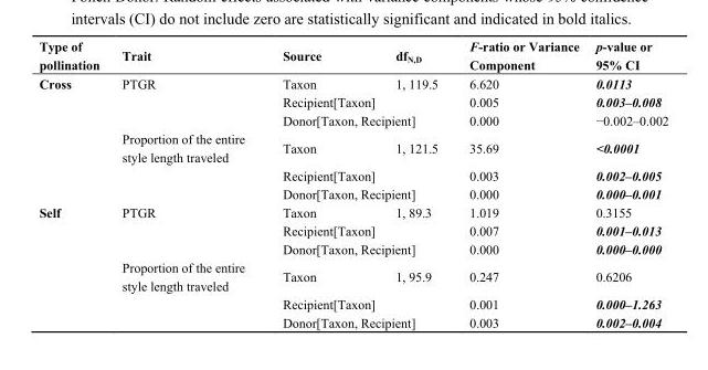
<table><thead><tr><td>Type of pollination</td><td>Trait</td><td>Source</td><td>df<sub>N,D</sub></td><td>F-ratio or Variance Component</td><td>p-value or 95% CI</td></tr></thead><tbody><tr><td rowspan="6">Cross</td><td>PTGR</td><td>Taxon</td><td>1, 119.5</td><td>6.620</td><td>0.0113</td></tr><tr><td></td><td colspan="2">Recipient[Taxon]</td><td>0.005</td><td>0.003–0.008</td></tr><tr><td></td><td colspan="2">Donor[Taxon, Recipient]</td><td>0.000</td><td>−0.002–0.002</td></tr><tr><td>Proportion of the entire style length traveled</td><td>Taxon</td><td>1, 121.5</td><td>35.69</td><td>&lt;0.0001</td></tr><tr><td></td><td colspan="2">Recipient[Taxon]</td><td>0.003</td><td>0.002–0.005</td></tr><tr><td></td><td colspan="2">Donor[Taxon, Recipient]</td><td>0.000</td><td>0.000–0.001</td></tr><tr><td rowspan="6">Self</td><td>PTGR</td><td>Taxon</td><td>1, 89.3</td><td>1.019</td><td>0.3155</td></tr><tr><td></td><td colspan="2">Recipient[Taxon]</td><td>0.007</td><td>0.001–0.013</td></tr><tr><td></td><td colspan="2">Donor[Taxon, Recipient]</td><td>0.000</td><td>0.000–0.000</td></tr><tr><td>Proportion of the entire style length traveled</td><td>Taxon</td><td>1, 95.9</td><td>0.247</td><td>0.6206</td></tr><tr><td></td><td colspan="2">Recipient[Taxon]</td><td>0.001</td><td>0.000–1.263</td></tr><tr><td></td><td colspan="2">Donor[Taxon, Recipient]</td><td>0.003</td><td>0.002–0.004</td></tr></tbody></table>